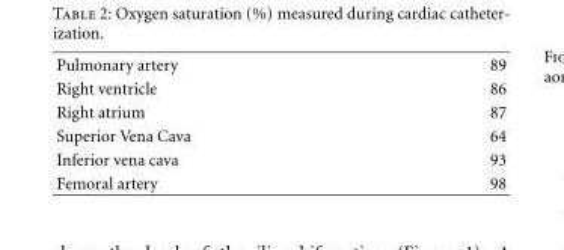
<table><tbody><tr><td>Pulmonary artery</td><td>89</td></tr><tr><td>Right ventricle</td><td>86</td></tr><tr><td>Right atrium</td><td>87</td></tr><tr><td>Superior Vena Cava</td><td>64</td></tr><tr><td>Inferior vena cava</td><td>93</td></tr><tr><td>Femoral artery</td><td>98</td></tr></tbody></table>